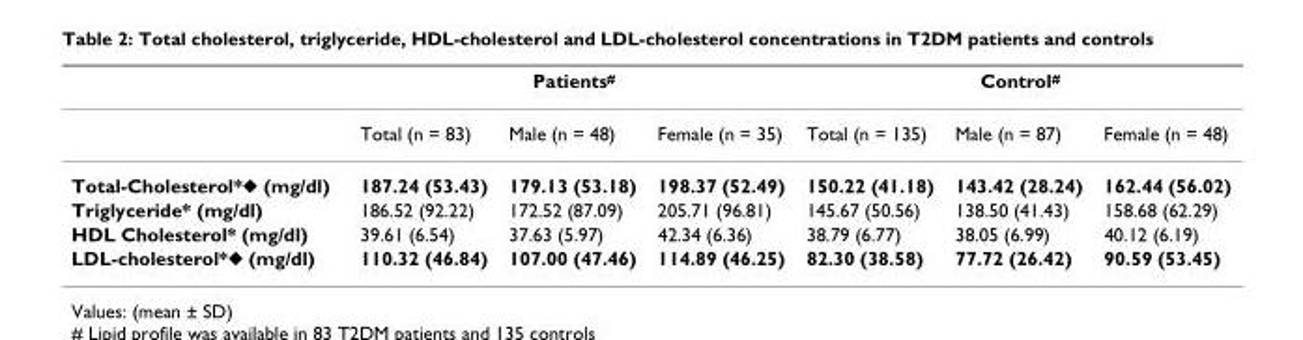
<table><thead><tr><td rowspan="2"></td><td colspan="3">Patients<sup>#</sup></td><td colspan="3">Control<sup>#</sup></td></tr><tr><td>Total (n = 83)</td><td>Male (n = 48)</td><td>Female (n = 35)</td><td>Total (n = 135)</td><td>Male (n = 87)</td><td>Female (n = 48)</td></tr></thead><tbody><tr><td>Total-Cholesterol*◆ (mg/dl)</td><td>187.24 (53.43)</td><td>179.13 (53.18)</td><td>198.37 (52.49)</td><td>150.22 (41.18)</td><td>143.42 (28.24)</td><td>162.44 (56.02)</td></tr><tr><td>Triglyceride* (mg/dl)</td><td>186.52 (92.22)</td><td>172.52 (87.09)</td><td>205.71 (96.81)</td><td>145.67 (50.56)</td><td>138.50 (41.43)</td><td>158.68 (62.29)</td></tr><tr><td>HDL Cholesterol* (mg/dl)</td><td>39.61 (6.54)</td><td>37.63 (5.97)</td><td>42.34 (6.36)</td><td>38.79 (6.77)</td><td>38.05 (6.99)</td><td>40.12 (6.19)</td></tr><tr><td>LDL-cholesterol*◆ (mg/dl)</td><td>110.32 (46.84)</td><td>107.00 (47.46)</td><td>114.89 (46.25)</td><td>82.30 (38.58)</td><td>77.72 (26.42)</td><td>90.59 (53.45)</td></tr></tbody></table>